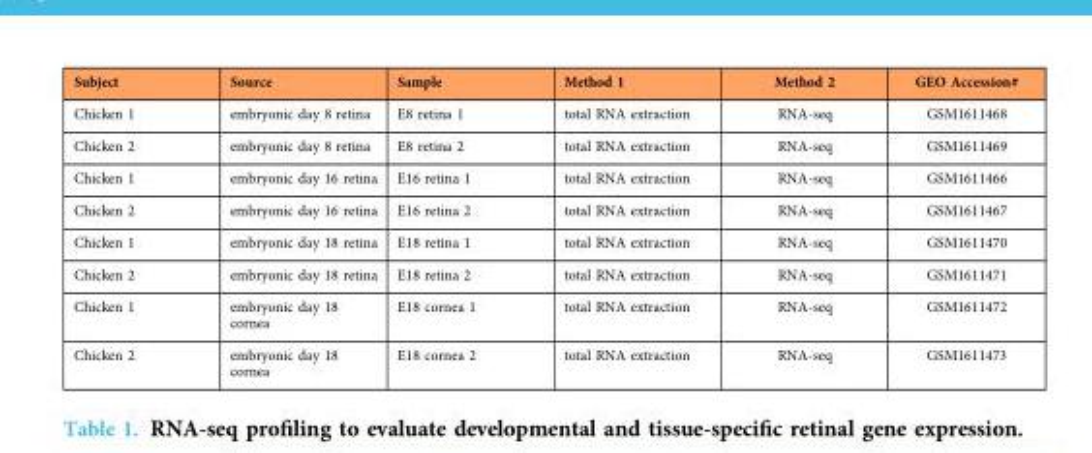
<table><thead><tr><td>Subject</td><td>Source</td><td>Sample</td><td>Method 1</td><td>Method 2</td><td>GEO Accession#</td></tr></thead><tbody><tr><td>Chicken 1</td><td>embryonic day 8 retina</td><td>E8 retina 1</td><td>total RNA extraction</td><td>RNA-seq</td><td>GSM1611468</td></tr><tr><td>Chicken 2</td><td>embryonic day 8 retina</td><td>E8 retina 2</td><td>total RNA extraction</td><td>RNA-seq</td><td>GSM1611469</td></tr><tr><td>Chicken 1</td><td>embryonic day 16 retina</td><td>E16 retina 1</td><td>total RNA extraction</td><td>RNA-seq</td><td>GSM1611466</td></tr><tr><td>Chicken 2</td><td>embryonic day 16 retina</td><td>E16 retina 2</td><td>total RNA extraction</td><td>RNA-seq</td><td>GSM1611467</td></tr><tr><td>Chicken 1</td><td>embryonic day 18 retina</td><td>E18 retina 1</td><td>total RNA extraction</td><td>RNA-seq</td><td>GSM1611470</td></tr><tr><td>Chicken 2</td><td>embryonic day 18 retina</td><td>E18 retina 2</td><td>total RNA extraction</td><td>RNA-seq</td><td>GSM1611471</td></tr><tr><td>Chicken 1</td><td>embryonic day 18 cornea</td><td>E18 cornea 1</td><td>total RNA extraction</td><td>RNA-seq</td><td>GSM1611472</td></tr><tr><td>Chicken 2</td><td>embryonic day 18 cornea</td><td>E18 cornea 2</td><td>total RNA extraction</td><td>RNA-seq</td><td>GSM1611473</td></tr></tbody></table>